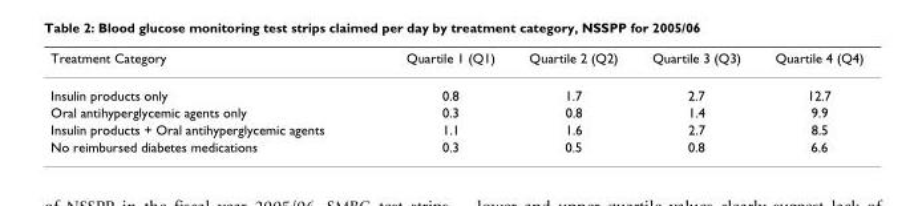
<table><thead><tr><td>Treatment Category</td><td>Quartile 1 (Q1)</td><td>Quartile 2 (Q2)</td><td>Quartile 3 (Q3)</td><td>Quartile 4 (Q4)</td></tr></thead><tbody><tr><td>Insulin products only</td><td>0.8</td><td>1.7</td><td>2.7</td><td>12.7</td></tr><tr><td>Oral antihyperglycemic agents only</td><td>0.3</td><td>0.8</td><td>1.4</td><td>9.9</td></tr><tr><td>Insulin products + Oral antihyperglycemic agents</td><td>1.1</td><td>1.6</td><td>2.7</td><td>8.5</td></tr><tr><td>No reimbursed diabetes medications</td><td>0.3</td><td>0.5</td><td>0.8</td><td>6.6</td></tr></tbody></table>